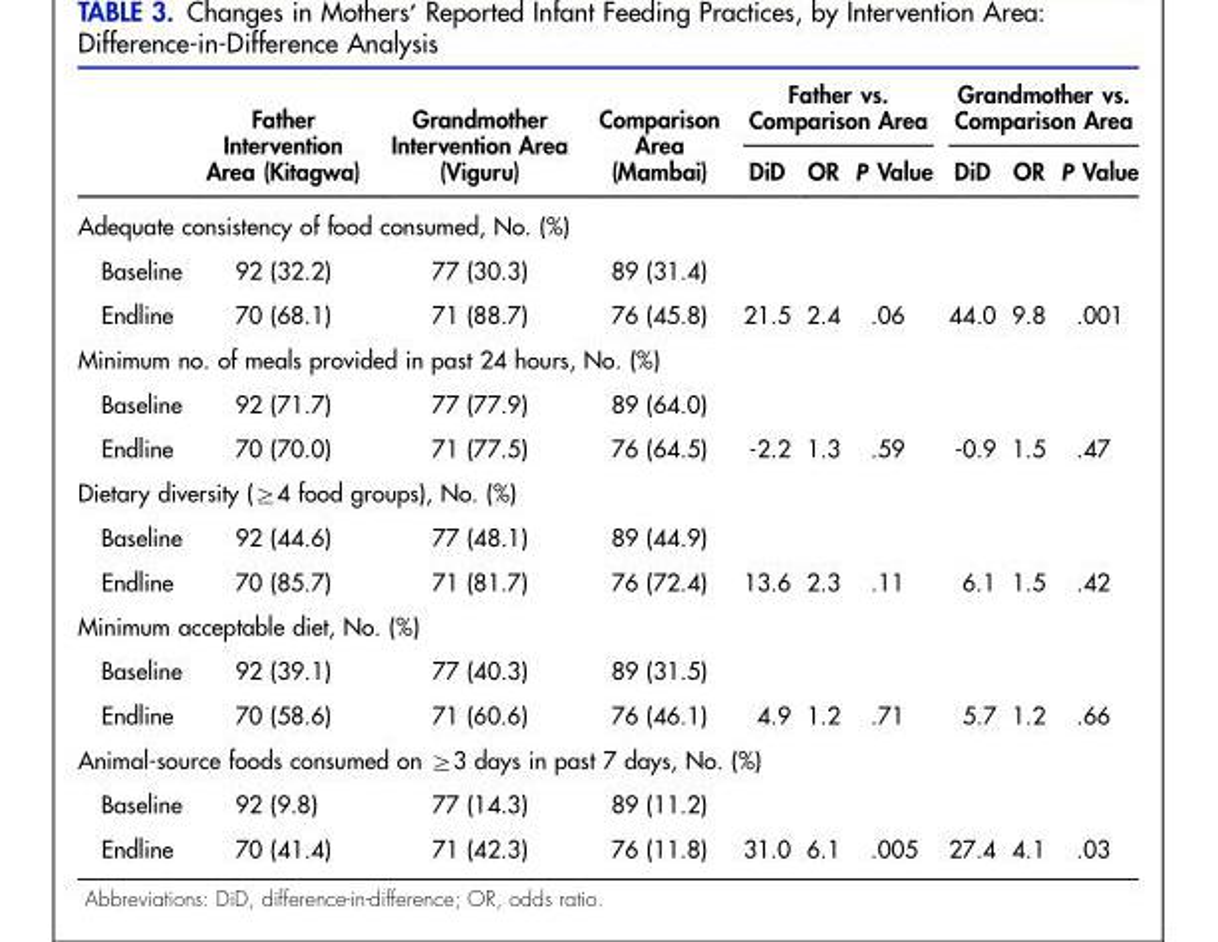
<table><thead><tr><td rowspan="2"></td><td rowspan="2">Father Intervention Area (Kitagwa)</td><td rowspan="2">Grandmother Intervention Area (Viguru)</td><td rowspan="2">Comparison Area (Mambai)</td><td colspan="3">Father vs. Comparison Area</td><td colspan="3">Grandmother vs. Comparison Area</td></tr><tr><td>DiD</td><td>OR</td><td>P Value</td><td>DiD</td><td>OR</td><td>P Value</td></tr></thead><tbody><tr><td colspan="10">Adequate consistency of food consumed, No. (%)</td></tr><tr><td>Baseline</td><td>92 (32.2)</td><td>77 (30.3)</td><td>89 (31.4)</td><td></td><td></td><td></td><td></td><td></td><td></td></tr><tr><td>Endline</td><td>70 (68.1)</td><td>71 (88.7)</td><td>76 (45.8)</td><td>21.5</td><td>2.4</td><td>.06</td><td>44.0</td><td>9.8</td><td>.001</td></tr><tr><td colspan="10">Minimum no. of meals provided in past 24 hours, No. (%)</td></tr><tr><td>Baseline</td><td>92 (71.7)</td><td>77 (77.9)</td><td>89 (64.0)</td><td></td><td></td><td></td><td></td><td></td><td></td></tr><tr><td>Endline</td><td>70 (70.0)</td><td>71 (77.5)</td><td>76 (64.5)</td><td>-2.2</td><td>1.3</td><td>.59</td><td>-0.9</td><td>1.5</td><td>.47</td></tr><tr><td colspan="10">Dietary diversity (≥4 food groups), No. (%)</td></tr><tr><td>Baseline</td><td>92 (44.6)</td><td>77 (48.1)</td><td>89 (44.9)</td><td></td><td></td><td></td><td></td><td></td><td></td></tr><tr><td>Endline</td><td>70 (85.7)</td><td>71 (81.7)</td><td>76 (72.4)</td><td>13.6</td><td>2.3</td><td>.11</td><td>6.1</td><td>1.5</td><td>.42</td></tr><tr><td colspan="10">Minimum acceptable diet, No. (%)</td></tr><tr><td>Baseline</td><td>92 (39.1)</td><td>77 (40.3)</td><td>89 (31.5)</td><td></td><td></td><td></td><td></td><td></td><td></td></tr><tr><td>Endline</td><td>70 (58.6)</td><td>71 (60.6)</td><td>76 (46.1)</td><td>4.9</td><td>1.2</td><td>.71</td><td>5.7</td><td>1.2</td><td>.66</td></tr><tr><td colspan="10">Animal-source foods consumed on ≥3 days in past 7 days, No. (%)</td></tr><tr><td>Baseline</td><td>92 (9.8)</td><td>77 (14.3)</td><td>89 (11.2)</td><td></td><td></td><td></td><td></td><td></td><td></td></tr><tr><td>Endline</td><td>70 (41.4)</td><td>71 (42.3)</td><td>76 (11.8)</td><td>31.0</td><td>6.1</td><td>.005</td><td>27.4</td><td>4.1</td><td>.03</td></tr></tbody></table>